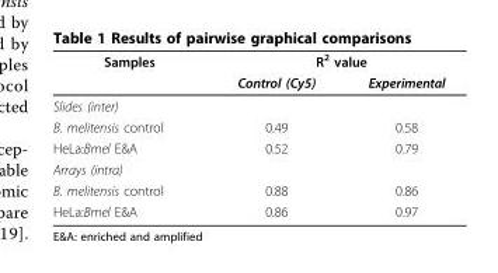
<table><thead><tr><td rowspan="2">Samples</td><td colspan="2">R<sup>2</sup> value</td></tr><tr><td>Control (Cy5)</td><td>Experimental</td></tr></thead><tbody><tr><td colspan="3">Slides (inter)</td></tr><tr><td>B. melitensis control</td><td>0.49</td><td>0.58</td></tr><tr><td>HeLa:Bmel E&amp;A</td><td>0.52</td><td>0.79</td></tr><tr><td colspan="3">Arrays (intra)</td></tr><tr><td>B. melitensis control</td><td>0.88</td><td>0.86</td></tr><tr><td>HeLa:Bmel E&amp;A</td><td>0.86</td><td>0.97</td></tr></tbody></table>